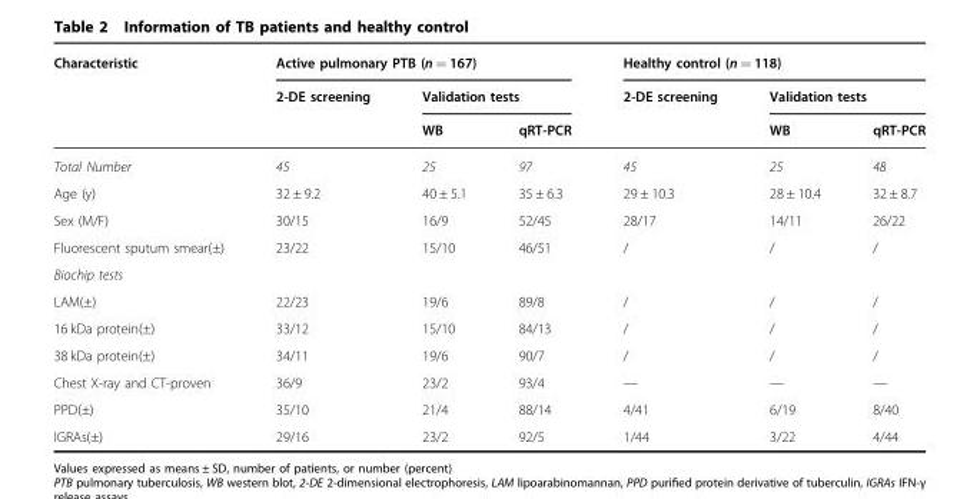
<table><thead><tr><td rowspan="3">Characteristic</td><td colspan="3">Active pulmonary PTB (n = 167)</td><td colspan="3">Healthy control (n = 118)</td></tr><tr><td rowspan="2">2-DE screening</td><td colspan="2">Validation tests</td><td rowspan="2">2-DE screening</td><td colspan="2">Validation tests</td></tr><tr><td>WB</td><td>qRT-PCR</td><td>WB</td><td>qRT-PCR</td></tr></thead><tbody><tr><td>Total Number</td><td>45</td><td>25</td><td>97</td><td>45</td><td>25</td><td>48</td></tr><tr><td>Age (y)</td><td>32 ± 9.2</td><td>40 ± 5.1</td><td>35 ± 6.3</td><td>29 ± 10.3</td><td>28 ± 10.4</td><td>32 ± 8.7</td></tr><tr><td>Sex (M/F)</td><td>30/15</td><td>16/9</td><td>52/45</td><td>28/17</td><td>14/11</td><td>26/22</td></tr><tr><td>Fluorescent sputum smear(±)</td><td>23/22</td><td>15/10</td><td>46/51</td><td>/</td><td>/</td><td>/</td></tr><tr><td colspan="7">Biochip tests</td></tr><tr><td>LAM(±)</td><td>22/23</td><td>19/6</td><td>89/8</td><td>/</td><td>/</td><td>/</td></tr><tr><td>16 kDa protein(±)</td><td>33/12</td><td>15/10</td><td>84/13</td><td>/</td><td>/</td><td>/</td></tr><tr><td>38 kDa protein(±)</td><td>34/11</td><td>19/6</td><td>90/7</td><td>/</td><td>/</td><td>/</td></tr><tr><td>Chest X-ray and CT-proven</td><td>36/9</td><td>23/2</td><td>93/4</td><td>—</td><td>—</td><td>—</td></tr><tr><td>PPD(±)</td><td>35/10</td><td>21/4</td><td>88/14</td><td>4/41</td><td>6/19</td><td>8/40</td></tr><tr><td>IGRAs(±)</td><td>29/16</td><td>23/2</td><td>92/5</td><td>1/44</td><td>3/22</td><td>4/44</td></tr></tbody></table>